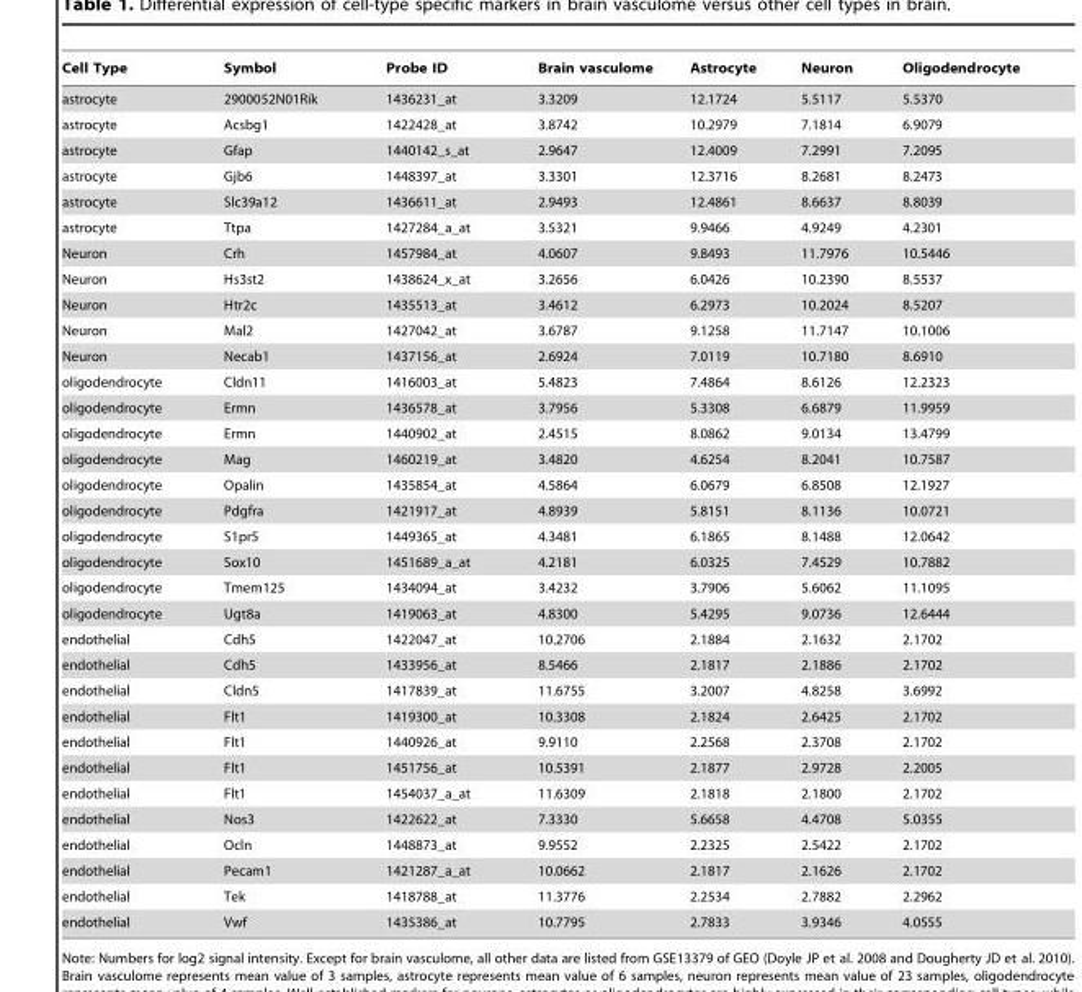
<table><thead><tr><td>Cell Type</td><td>Symbol</td><td>Probe ID</td><td>Brain vasculome</td><td>Astrocyte</td><td>Neuron</td><td>Oligodendrocyte</td></tr></thead><tbody><tr><td>astrocyte</td><td>2900052N01Rik</td><td>1436231_at</td><td>3.3209</td><td>12.1724</td><td>5.5117</td><td>5.5370</td></tr><tr><td>astrocyte</td><td>Acsbg1</td><td>1422428_at</td><td>3.8742</td><td>10.2979</td><td>7.1814</td><td>6.9079</td></tr><tr><td>astrocyte</td><td>Gfap</td><td>1440142_s_at</td><td>2.9647</td><td>12.4009</td><td>7.2991</td><td>7.2095</td></tr><tr><td>astrocyte</td><td>Gjb6</td><td>1448397_at</td><td>3.3301</td><td>12.3716</td><td>8.2681</td><td>8.2473</td></tr><tr><td>astrocyte</td><td>Slc39a12</td><td>1436611_at</td><td>2.9493</td><td>12.4861</td><td>8.6637</td><td>8.8039</td></tr><tr><td>astrocyte</td><td>Ttpa</td><td>1427284_a_at</td><td>3.5321</td><td>9.9466</td><td>4.9249</td><td>4.2301</td></tr><tr><td>Neuron</td><td>Crh</td><td>1457984_at</td><td>4.0607</td><td>9.8493</td><td>11.7976</td><td>10.5446</td></tr><tr><td>Neuron</td><td>Hs3st2</td><td>1438624_x_at</td><td>3.2656</td><td>6.0426</td><td>10.2390</td><td>8.5537</td></tr><tr><td>Neuron</td><td>Htr2c</td><td>1435513_at</td><td>3.4612</td><td>6.2973</td><td>10.2024</td><td>8.5207</td></tr><tr><td>Neuron</td><td>Mal2</td><td>1427042_at</td><td>3.6787</td><td>9.1258</td><td>11.7147</td><td>10.1006</td></tr><tr><td>Neuron</td><td>Necab1</td><td>1437156_at</td><td>2.6924</td><td>7.0119</td><td>10.7180</td><td>8.6910</td></tr><tr><td>oligodendrocyte</td><td>Cldn11</td><td>1416003_at</td><td>5.4823</td><td>7.4864</td><td>8.6126</td><td>12.2323</td></tr><tr><td>oligodendrocyte</td><td>Ermn</td><td>1436578_at</td><td>3.7956</td><td>5.3308</td><td>6.6879</td><td>11.9959</td></tr><tr><td>oligodendrocyte</td><td>Ermn</td><td>1440902_at</td><td>2.4515</td><td>8.0862</td><td>9.0134</td><td>13.4799</td></tr><tr><td>oligodendrocyte</td><td>Mag</td><td>1460219_at</td><td>3.4820</td><td>4.6254</td><td>8.2041</td><td>10.7587</td></tr><tr><td>oligodendrocyte</td><td>Opalin</td><td>1435854_at</td><td>4.5864</td><td>6.0679</td><td>6.8508</td><td>12.1927</td></tr><tr><td>oligodendrocyte</td><td>Pdgfra</td><td>1421917_at</td><td>4.8939</td><td>5.8151</td><td>8.1136</td><td>10.0721</td></tr><tr><td>oligodendrocyte</td><td>S1pr5</td><td>1449365_at</td><td>4.3481</td><td>6.1865</td><td>8.1488</td><td>12.0642</td></tr><tr><td>oligodendrocyte</td><td>Sox10</td><td>1451689_a_at</td><td>4.2181</td><td>6.0325</td><td>7.4529</td><td>10.7882</td></tr><tr><td>oligodendrocyte</td><td>Tmem125</td><td>1434094_at</td><td>3.4232</td><td>3.7906</td><td>5.6062</td><td>11.1095</td></tr><tr><td>oligodendrocyte</td><td>Ugt8a</td><td>1419063_at</td><td>4.8300</td><td>5.4295</td><td>9.0736</td><td>12.6444</td></tr><tr><td>endothelial</td><td>Cdh5</td><td>1422047_at</td><td>10.2706</td><td>2.1884</td><td>2.1632</td><td>2.1702</td></tr><tr><td>endothelial</td><td>Cdh5</td><td>1433956_at</td><td>8.5466</td><td>2.1817</td><td>2.1886</td><td>2.1702</td></tr><tr><td>endothelial</td><td>Cldn5</td><td>1417839_at</td><td>11.6755</td><td>3.2007</td><td>4.8258</td><td>3.6992</td></tr><tr><td>endothelial</td><td>Flt1</td><td>1419300_at</td><td>10.3308</td><td>2.1824</td><td>2.6425</td><td>2.1702</td></tr><tr><td>endothelial</td><td>Flt1</td><td>1440926_at</td><td>9.9110</td><td>2.2568</td><td>2.3708</td><td>2.1702</td></tr><tr><td>endothelial</td><td>Flt1</td><td>1451756_at</td><td>10.5391</td><td>2.1877</td><td>2.9728</td><td>2.2005</td></tr><tr><td>endothelial</td><td>Flt1</td><td>1454037_a_at</td><td>11.6309</td><td>2.1818</td><td>2.1800</td><td>2.1702</td></tr><tr><td>endothelial</td><td>Nos3</td><td>1422622_at</td><td>7.3330</td><td>5.6658</td><td>4.4708</td><td>5.0355</td></tr><tr><td>endothelial</td><td>Ocln</td><td>1448873_at</td><td>9.9552</td><td>2.2325</td><td>2.5422</td><td>2.1702</td></tr><tr><td>endothelial</td><td>Pecam1</td><td>1421287_a_at</td><td>10.0662</td><td>2.1817</td><td>2.1626</td><td>2.1702</td></tr><tr><td>endothelial</td><td>Tek</td><td>1418788_at</td><td>11.3776</td><td>2.2534</td><td>2.7882</td><td>2.2962</td></tr><tr><td>endothelial</td><td>Vwf</td><td>1435386_at</td><td>10.7795</td><td>2.7833</td><td>3.9346</td><td>4.0555</td></tr></tbody></table>